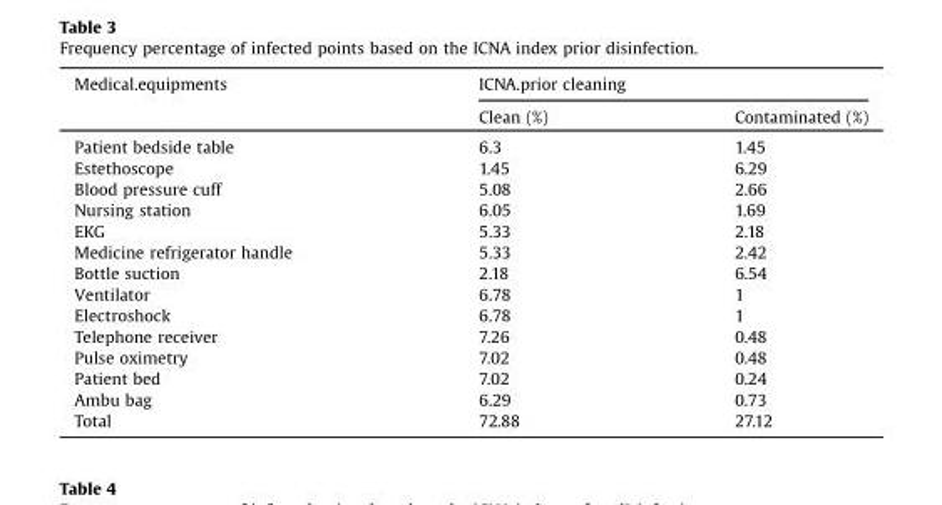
<table><thead><tr><td rowspan="2">Medical.equipments</td><td colspan="2">ICNA.prior cleaning</td></tr><tr><td>Clean (%)</td><td>Contaminated (%)</td></tr></thead><tbody><tr><td>Patient bedside table</td><td>6.3</td><td>1.45</td></tr><tr><td>Estethoscope</td><td>1.45</td><td>6.29</td></tr><tr><td>Blood pressure cuff</td><td>5.08</td><td>2.66</td></tr><tr><td>Nursing station</td><td>6.05</td><td>1.69</td></tr><tr><td>EKG</td><td>5.33</td><td>2.18</td></tr><tr><td>Medicine refrigerator handle</td><td>5.33</td><td>2.42</td></tr><tr><td>Bottle suction</td><td>2.18</td><td>6.54</td></tr><tr><td>Ventilator</td><td>6.78</td><td>1</td></tr><tr><td>Electroshock</td><td>6.78</td><td>1</td></tr><tr><td>Telephone receiver</td><td>7.26</td><td>0.48</td></tr><tr><td>Pulse oximetry</td><td>7.02</td><td>0.48</td></tr><tr><td>Patient bed</td><td>7.02</td><td>0.24</td></tr><tr><td>Ambu bag</td><td>6.29</td><td>0.73</td></tr><tr><td>Total</td><td>72.88</td><td>27.12</td></tr></tbody></table>